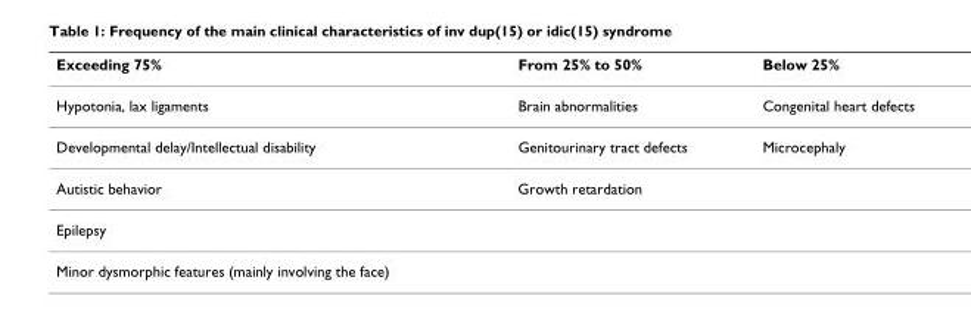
<table><thead><tr><td>Exceeding 75%</td><td>From 25% to 50%</td><td>Below 25%</td></tr></thead><tbody><tr><td>Hypotonia, lax ligaments</td><td>Brain abnormalities</td><td>Congenital heart defects</td></tr><tr><td>Developmental delay/Intellectual disability</td><td>Genitourinary tract defects</td><td>Microcephaly</td></tr><tr><td>Autistic behavior</td><td>Growth retardation</td><td></td></tr><tr><td colspan="3">Epilepsy</td></tr><tr><td>Minor dysmorphic features (mainly involving the face)</td><td></td><td></td></tr></tbody></table>